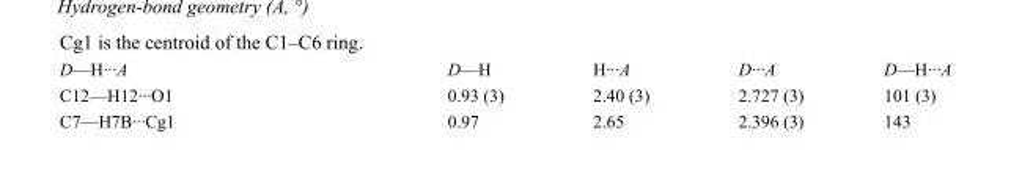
<table><tbody><tr><td>D—H···A</td><td>D—H</td><td>H···A</td><td>D···A</td><td>D—H···A</td></tr><tr><td>C12—H12···O1</td><td>0.93 (3)</td><td>2.40 (3)</td><td>2.727 (3)</td><td>101 (3)</td></tr><tr><td>C7—H7B···Cg1</td><td>0.97</td><td>2.65</td><td>2.396 (3)</td><td>143</td></tr></tbody></table>